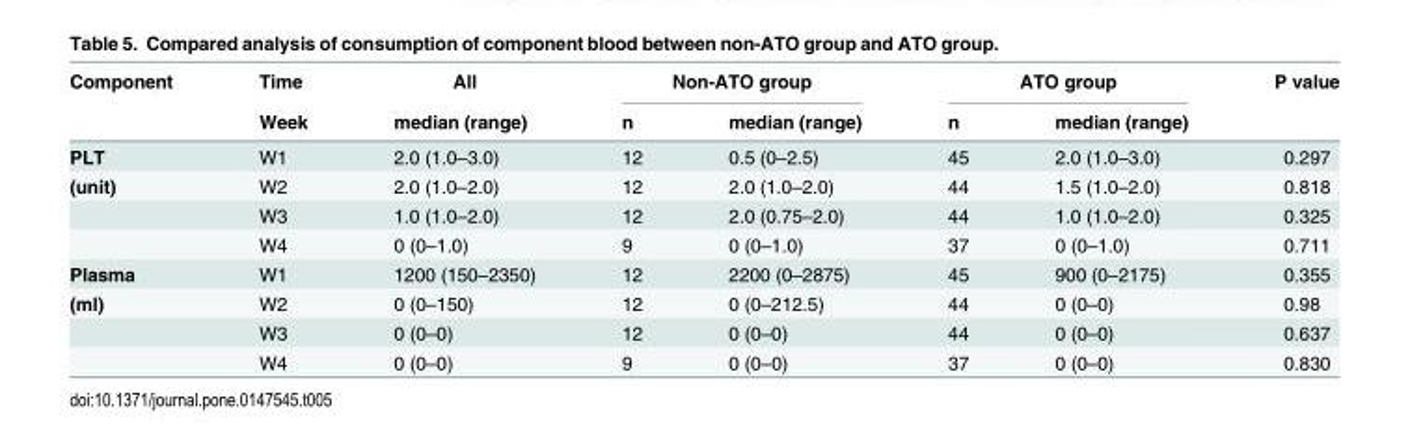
<table><thead><tr><td rowspan="2">Component</td><td rowspan="2">Time Week</td><td rowspan="2">All median (range)</td><td colspan="2">Non-ATO group</td><td colspan="2">ATO group</td><td rowspan="2">P value</td></tr><tr><td>n</td><td>median (range)</td><td>n</td><td>median (range)</td></tr></thead><tbody><tr><td>PLT</td><td>W1</td><td>2.0 (1.0–3.0)</td><td>12</td><td>0.5 (0–2.5)</td><td>45</td><td>2.0 (1.0–3.0)</td><td>0.297</td></tr><tr><td rowspan="3">(unit)</td><td>W2</td><td>2.0 (1.0–2.0)</td><td>12</td><td>2.0 (1.0–2.0)</td><td>44</td><td>1.5 (1.0–2.0)</td><td>0.818</td></tr><tr><td>W3</td><td>1.0 (1.0–2.0)</td><td>12</td><td>2.0 (0.75–2.0)</td><td>44</td><td>1.0 (1.0–2.0)</td><td>0.325</td></tr><tr><td>W4</td><td>0 (0–1.0)</td><td>9</td><td>0 (0–1.0)</td><td>37</td><td>0 (0–1.0)</td><td>0.711</td></tr><tr><td>Plasma</td><td>W1</td><td>1200 (150–2350)</td><td>12</td><td>2200 (0–2875)</td><td>45</td><td>900 (0–2175)</td><td>0.355</td></tr><tr><td rowspan="3">(ml)</td><td>W2</td><td>0 (0–150)</td><td>12</td><td>0 (0–212.5)</td><td>44</td><td>0 (0–0)</td><td>0.98</td></tr><tr><td>W3</td><td>0 (0–0)</td><td>12</td><td>0 (0–0)</td><td>44</td><td>0 (0–0)</td><td>0.637</td></tr><tr><td>W4</td><td>0 (0–0)</td><td>9</td><td>0 (0–0)</td><td>37</td><td>0 (0–0)</td><td>0.830</td></tr></tbody></table>